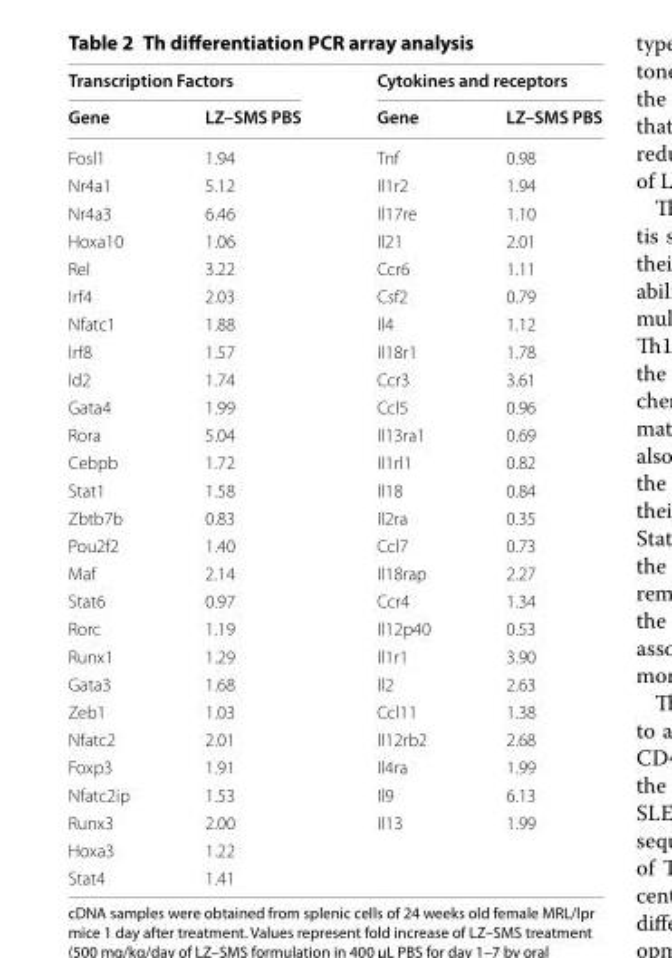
<table><thead><tr><td colspan="2">Transcription Factors</td><td colspan="2">Cytokines and receptors</td></tr><tr><td>Gene</td><td>LZ–SMS PBS</td><td>Gene</td><td>LZ–SMS PBS</td></tr></thead><tbody><tr><td>Fosl1</td><td>1.94</td><td>Tnf</td><td>0.98</td></tr><tr><td>Nr4a1</td><td>5.12</td><td>Il1r2</td><td>1.94</td></tr><tr><td>Nr4a3</td><td>6.46</td><td>Il17re</td><td>1.10</td></tr><tr><td>Hoxa10</td><td>1.06</td><td>Il21</td><td>2.01</td></tr><tr><td>Rel</td><td>3.22</td><td>Ccr6</td><td>1.11</td></tr><tr><td>Irf4</td><td>2.03</td><td>Csf2</td><td>0.79</td></tr><tr><td>Nfatc1</td><td>1.88</td><td>Il4</td><td>1.12</td></tr><tr><td>Irf8</td><td>1.57</td><td>Il18r1</td><td>1.78</td></tr><tr><td>Id2</td><td>1.74</td><td>Ccr3</td><td>3.61</td></tr><tr><td>Gata4</td><td>1.99</td><td>Ccl5</td><td>0.96</td></tr><tr><td>Rora</td><td>5.04</td><td>Il13ra1</td><td>0.69</td></tr><tr><td>Cebpb</td><td>1.72</td><td>Il1rl1</td><td>0.82</td></tr><tr><td>Stat1</td><td>1.58</td><td>Il18</td><td>0.84</td></tr><tr><td>Zbtb7b</td><td>0.83</td><td>Il2ra</td><td>0.35</td></tr><tr><td>Pou2f2</td><td>1.40</td><td>Ccl7</td><td>0.73</td></tr><tr><td>Maf</td><td>2.14</td><td>Il18rap</td><td>2.27</td></tr><tr><td>Stat6</td><td>0.97</td><td>Ccr4</td><td>1.34</td></tr><tr><td>Rorc</td><td>1.19</td><td>Il12p40</td><td>0.53</td></tr><tr><td>Runx1</td><td>1.29</td><td>Il1r1</td><td>3.90</td></tr><tr><td>Gata3</td><td>1.68</td><td>Il2</td><td>2.63</td></tr><tr><td>Zeb1</td><td>1.03</td><td>Ccl11</td><td>1.38</td></tr><tr><td>Nfatc2</td><td>2.01</td><td>Il12rb2</td><td>2.68</td></tr><tr><td>Foxp3</td><td>1.91</td><td>Il4ra</td><td>1.99</td></tr><tr><td>Nfatc2ip</td><td>1.53</td><td>Il9</td><td>6.13</td></tr><tr><td>Runx3</td><td>2.00</td><td>Il13</td><td>1.99</td></tr><tr><td>Hoxa3</td><td>1.22</td><td></td><td></td></tr><tr><td>Stat4</td><td>1.41</td><td></td><td></td></tr></tbody></table>